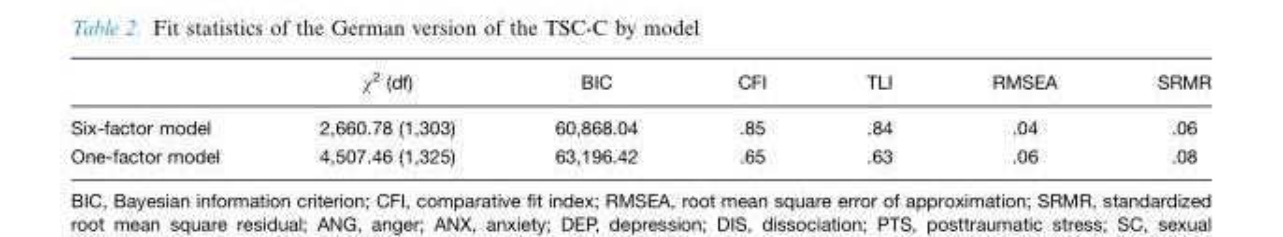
<table><thead><tr><td></td><td>χ<sup>2</sup> (df)</td><td>BIC</td><td>CFI</td><td>TLI</td><td>RMSEA</td><td>SRMR</td></tr></thead><tbody><tr><td>Six-factor model</td><td>2,660.78 (1,303)</td><td>60,868.04</td><td>.85</td><td>.84</td><td>.04</td><td>.06</td></tr><tr><td>One-factor model</td><td>4,507.46 (1,325)</td><td>63,196.42</td><td>.65</td><td>.63</td><td>.06</td><td>.08</td></tr></tbody></table>